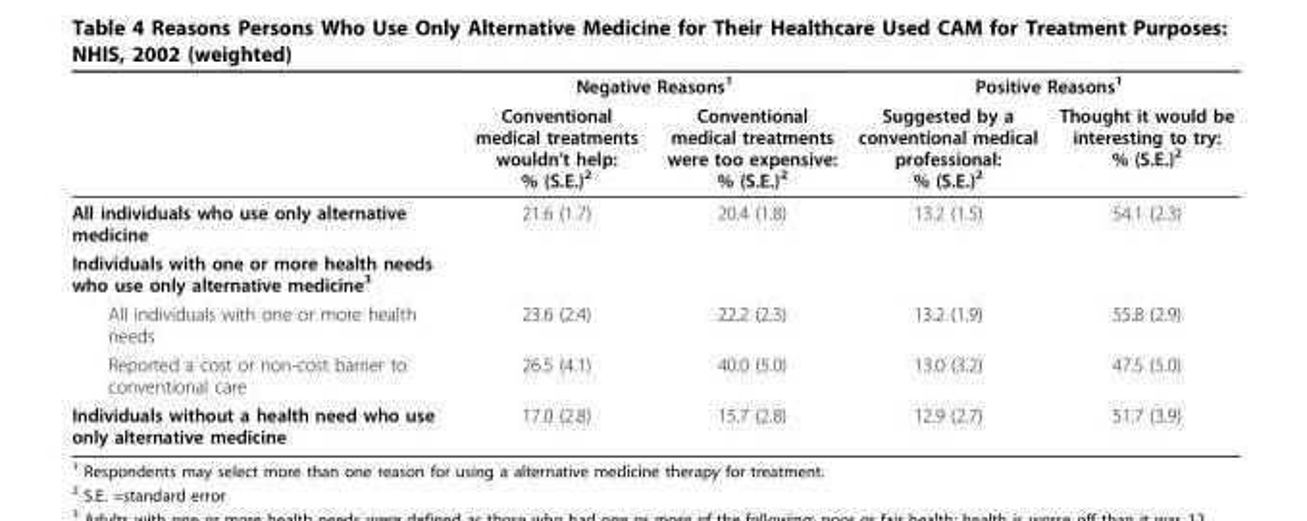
<table><thead><tr><td rowspan="2"></td><td colspan="2">Negative Reasons<sup>1</sup></td><td colspan="2">Positive Reasons<sup>1</sup></td></tr><tr><td>Conventional medical treatments wouldn’t help: % (S.E.)<sup>2</sup></td><td>Conventional medical treatments were too expensive: % (S.E.)<sup>2</sup></td><td>Suggested by a conventional medical professional: % (S.E.)<sup>2</sup></td><td>Thought it would be interesting to try: % (S.E.)<sup>2</sup></td></tr></thead><tbody><tr><td>All individuals who use only alternative medicine</td><td>21.6 (1.7)</td><td>20.4 (1.8)</td><td>13.2 (1.5)</td><td>54.1 (2.3)</td></tr><tr><td colspan="5">Individuals with one or more health needs who use only alternative medicine<sup>3</sup></td></tr><tr><td>All individuals with one or more health needs</td><td>23.6 (2.4)</td><td>22.2 (2.3)</td><td>13.2 (1.9)</td><td>55.8 (2.9)</td></tr><tr><td>Reported a cost or non-cost barrier to conventional care</td><td>26.5 (4.1)</td><td>40.0 (5.0)</td><td>13.0 (3.2)</td><td>47.5 (5.0)</td></tr><tr><td>Individuals without a health need who use only alternative medicine</td><td>17.0 (2.8)</td><td>15.7 (2.8)</td><td>12.9 (2.7)</td><td>51.7 (3.9)</td></tr></tbody></table>